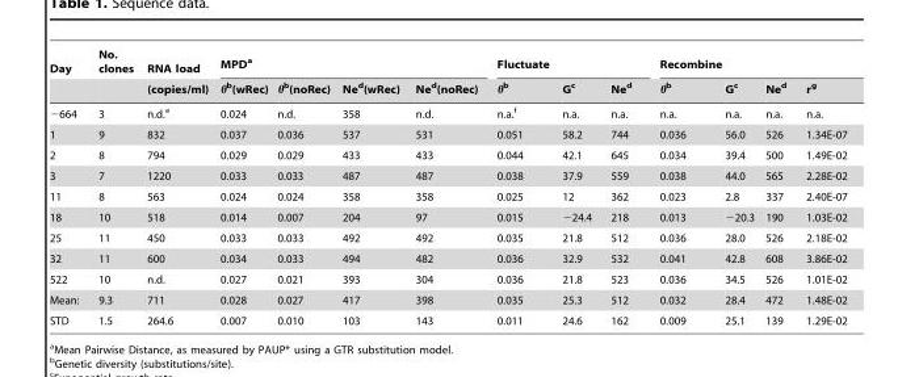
<table><thead><tr><td rowspan="2">Day</td><td rowspan="2">No. clones</td><td rowspan="2">RNA load (copies/ml)</td><td colspan="4">MPD<sup>a</sup></td><td colspan="3">Fluctuate</td><td colspan="4">Recombine</td></tr><tr><td>θ<sup>b</sup>(wRec)</td><td>θb(noRec)</td><td>Ne<sup>d</sup>(wRec)</td><td>Ne<sup>d</sup>(noRec)</td><td>θb</td><td>G<sup>c</sup></td><td>Ne<sup>d</sup></td><td>θb</td><td>G<sup>c</sup></td><td>Ne<sup>d</sup></td><td>r<sup>g</sup></td></tr></thead><tbody><tr><td>−664</td><td>3</td><td>n.d.<sup>e</sup></td><td>0.024</td><td>n.d.</td><td>358</td><td>n.d.</td><td>n.a.<sup>f</sup></td><td>n.a.</td><td>n.a.</td><td>n.a.</td><td>n.a.</td><td>n.a.</td><td>n.a.</td></tr><tr><td>1</td><td>9</td><td>832</td><td>0.037</td><td>0.036</td><td>537</td><td>531</td><td>0.051</td><td>58.2</td><td>744</td><td>0.036</td><td>56.0</td><td>526</td><td>1.34E-07</td></tr><tr><td>2</td><td>8</td><td>794</td><td>0.029</td><td>0.029</td><td>433</td><td>433</td><td>0.044</td><td>42.1</td><td>645</td><td>0.034</td><td>39.4</td><td>500</td><td>1.49E-02</td></tr><tr><td>3</td><td>7</td><td>1220</td><td>0.033</td><td>0.033</td><td>487</td><td>487</td><td>0.038</td><td>37.9</td><td>559</td><td>0.038</td><td>44.0</td><td>565</td><td>2.28E-02</td></tr><tr><td>11</td><td>8</td><td>563</td><td>0.024</td><td>0.024</td><td>358</td><td>358</td><td>0.025</td><td>12</td><td>362</td><td>0.023</td><td>2.8</td><td>337</td><td>2.40E-07</td></tr><tr><td>18</td><td>10</td><td>518</td><td>0.014</td><td>0.007</td><td>204</td><td>97</td><td>0.015</td><td>−24.4</td><td>218</td><td>0.013</td><td>−20.3</td><td>190</td><td>1.03E-02</td></tr><tr><td>25</td><td>11</td><td>450</td><td>0.033</td><td>0.033</td><td>492</td><td>492</td><td>0.035</td><td>21.8</td><td>512</td><td>0.036</td><td>28.0</td><td>526</td><td>2.18E-02</td></tr><tr><td>32</td><td>11</td><td>600</td><td>0.034</td><td>0.033</td><td>494</td><td>482</td><td>0.036</td><td>32.9</td><td>532</td><td>0.041</td><td>42.8</td><td>608</td><td>3.86E-02</td></tr><tr><td>522</td><td>10</td><td>n.d.</td><td>0.027</td><td>0.021</td><td>393</td><td>304</td><td>0.036</td><td>21.8</td><td>523</td><td>0.036</td><td>34.5</td><td>526</td><td>1.01E-02</td></tr><tr><td>Mean:</td><td>9.3</td><td>711</td><td>0.028</td><td>0.027</td><td>417</td><td>398</td><td>0.035</td><td>25.3</td><td>512</td><td>0.032</td><td>28.4</td><td>472</td><td>1.48E-02</td></tr><tr><td>STD</td><td>1.5</td><td>264.6</td><td>0.007</td><td>0.010</td><td>103</td><td>143</td><td>0.011</td><td>24.6</td><td>162</td><td>0.009</td><td>25.1</td><td>139</td><td>1.29E-02</td></tr></tbody></table>